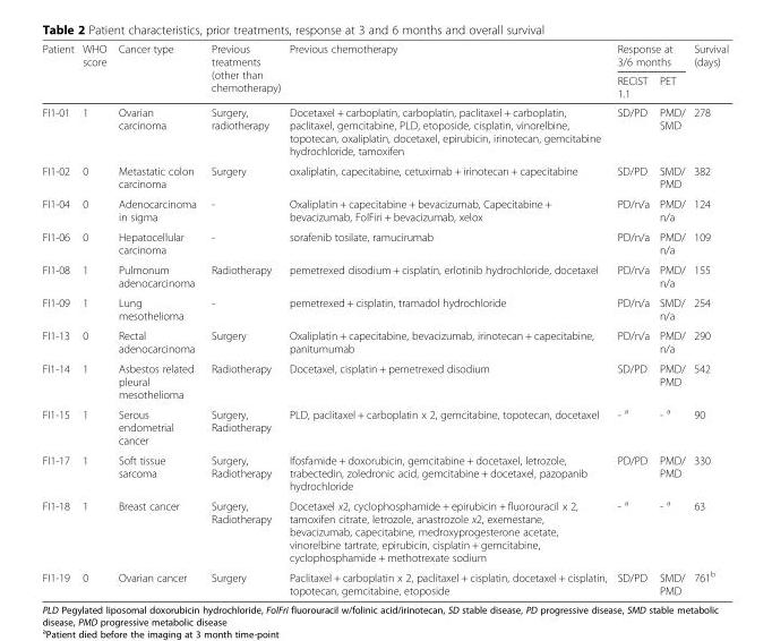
<table><thead><tr><td rowspan="2">Patient</td><td rowspan="2">WHO score</td><td rowspan="2">Cancer type</td><td rowspan="2">Previous treatments (other than chemotherapy)</td><td rowspan="2">Previous chemotherapy</td><td colspan="2">Response at 3/6 months</td><td rowspan="2">Survival (days)</td></tr><tr><td>RECIST 1.1</td><td>PET</td></tr></thead><tbody><tr><td>FI1-01</td><td>1</td><td>Ovarian carcinoma</td><td>Surgery, radiotherapy</td><td>Docetaxel + carboplatin, carboplatin, paclitaxel + carboplatin, paclitaxel, gemcitabine, PLD, etoposide, cisplatin, vinorelbine, topotecan, oxaliplatin, docetaxel, epirubicin, irinotecan, gemcitabine hydrochloride, tamoxifen</td><td>SD/PD</td><td>PMD/ SMD</td><td>278</td></tr><tr><td>FI1-02</td><td>0</td><td>Metastatic colon carcinoma</td><td>Surgery</td><td>oxaliplatin, capecitabine, cetuximab + irinotecan + capecitabine</td><td>SD/PD</td><td>SMD/ PMD</td><td>382</td></tr><tr><td>FI1-04</td><td>0</td><td>Adenocarcinoma in sigma</td><td>-</td><td>Oxaliplatin + capecitabine + bevacizumab, Capecitabine + bevacizumab, FolFiri + bevacizumab, xelox</td><td>PD/n/a</td><td>PMD/ n/a</td><td>124</td></tr><tr><td>FI1-06</td><td>0</td><td>Hepatocellular carcinoma</td><td>-</td><td>sorafenib tosilate, ramucirumab</td><td>PD/n/a</td><td>PMD/ n/a</td><td>109</td></tr><tr><td>FI1-08</td><td>1</td><td>Pulmonum adenocarcinoma</td><td>Radiotherapy</td><td>pemetrexed disodium + cisplatin, erlotinib hydrochloride, docetaxel</td><td>PD/n/a</td><td>PMD/ n/a</td><td>155</td></tr><tr><td>FI1-09</td><td>1</td><td>Lung mesothelioma</td><td>-</td><td>pemetrexed + cisplatin, tramadol hydrochloride</td><td>PD/n/a</td><td>SMD/ n/a</td><td>254</td></tr><tr><td>FI1-13</td><td>0</td><td>Rectal adenocarcinoma</td><td>Surgery</td><td>Oxaliplatin + capecitabine, bevacizumab, irinotecan + capecitabine, panitumumab</td><td>PD/n/a</td><td>PMD/ n/a</td><td>290</td></tr><tr><td>FI1-14</td><td>1</td><td>Asbestos related pleural mesothelioma</td><td>Radiotherapy</td><td>Docetaxel, cisplatin + pemetrexed disodium</td><td>SD/PD</td><td>PMD/ PMD</td><td>542</td></tr><tr><td>FI1-15</td><td>1</td><td>Serous endometrial cancer</td><td>Surgery, Radiotherapy</td><td>PLD, paclitaxel + carboplatin x 2, gemcitabine, topotecan, docetaxel</td><td>- <sup>a</sup></td><td>- <sup>a</sup></td><td>90</td></tr><tr><td>FI1-17</td><td>1</td><td>Soft tissue sarcoma</td><td>Surgery, Radiotherapy</td><td>Ifosfamide + doxorubicin, gemcitabine + docetaxel, letrozole, trabectedin, zoledronic acid, gemcitabine + docetaxel, pazopanib hydrochloride</td><td>PD/PD</td><td>PMD/ PMD</td><td>330</td></tr><tr><td>FI1-18</td><td>1</td><td>Breast cancer</td><td>Surgery, Radiotherapy</td><td>Docetaxel x2, cyclophosphamide + epirubicin + fluorouracil x 2, tamoxifen citrate, letrozole, anastrozole x2, exemestane, bevacizumab, capecitabine, medroxyprogesterone acetate, vinorelbine tartrate, epirubicin, cisplatin + gemcitabine, cyclophosphamide + methotrexate sodium</td><td>- <sup>a</sup></td><td>- <sup>a</sup></td><td>63</td></tr><tr><td>FI1-19</td><td>0</td><td>Ovarian cancer</td><td>Surgery</td><td>Paclitaxel + carboplatin x 2, paclitaxel + cisplatin, docetaxel + cisplatin, topotecan, gemcitabine, etoposide</td><td>SD/PD</td><td>SMD/ PMD</td><td>761<sup>b</sup></td></tr></tbody></table>